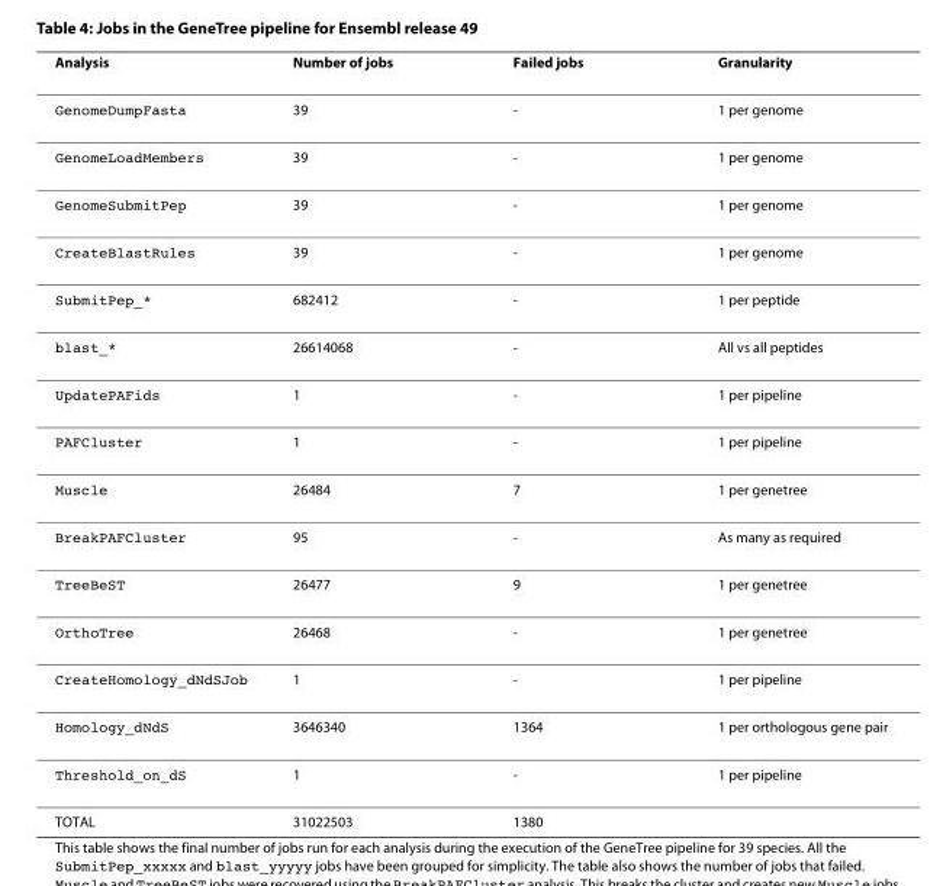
<table><thead><tr><td>Analysis</td><td>Number of jobs</td><td>Failed jobs</td><td>Granularity</td></tr></thead><tbody><tr><td>GenomeDumpFasta</td><td>39</td><td>-</td><td>1 per genome</td></tr><tr><td>GenomeLoadMembers</td><td>39</td><td>-</td><td>1 per genome</td></tr><tr><td>GenomeSubmitPep</td><td>39</td><td>-</td><td>1 per genome</td></tr><tr><td>CreateBlastRules</td><td>39</td><td>-</td><td>1 per genome</td></tr><tr><td>SubmitPep_*</td><td>682412</td><td>-</td><td>1 per peptide</td></tr><tr><td>blast_*</td><td>26614068</td><td>-</td><td>All vs all peptides</td></tr><tr><td>UpdatePAFids</td><td>1</td><td>-</td><td>1 per pipeline</td></tr><tr><td>PAFCluster</td><td>1</td><td>-</td><td>1 per pipeline</td></tr><tr><td>Muscle</td><td>26484</td><td>7</td><td>1 per genetree</td></tr><tr><td>BreakPAFCluster</td><td>95</td><td>-</td><td>As many as required</td></tr><tr><td>TreeBeST</td><td>26477</td><td>9</td><td>1 per genetree</td></tr><tr><td>OrthoTree</td><td>26468</td><td>-</td><td>1 per genetree</td></tr><tr><td>CreateHomology_dNdSJob</td><td>1</td><td>-</td><td>1 per pipeline</td></tr><tr><td>Homology_dNdS</td><td>3646340</td><td>1364</td><td>1 per orthologous gene pair</td></tr><tr><td>Threshold_on_dS</td><td>1</td><td>-</td><td>1 per pipeline</td></tr><tr><td>TOTAL</td><td>31022503</td><td>1380</td><td></td></tr></tbody></table>